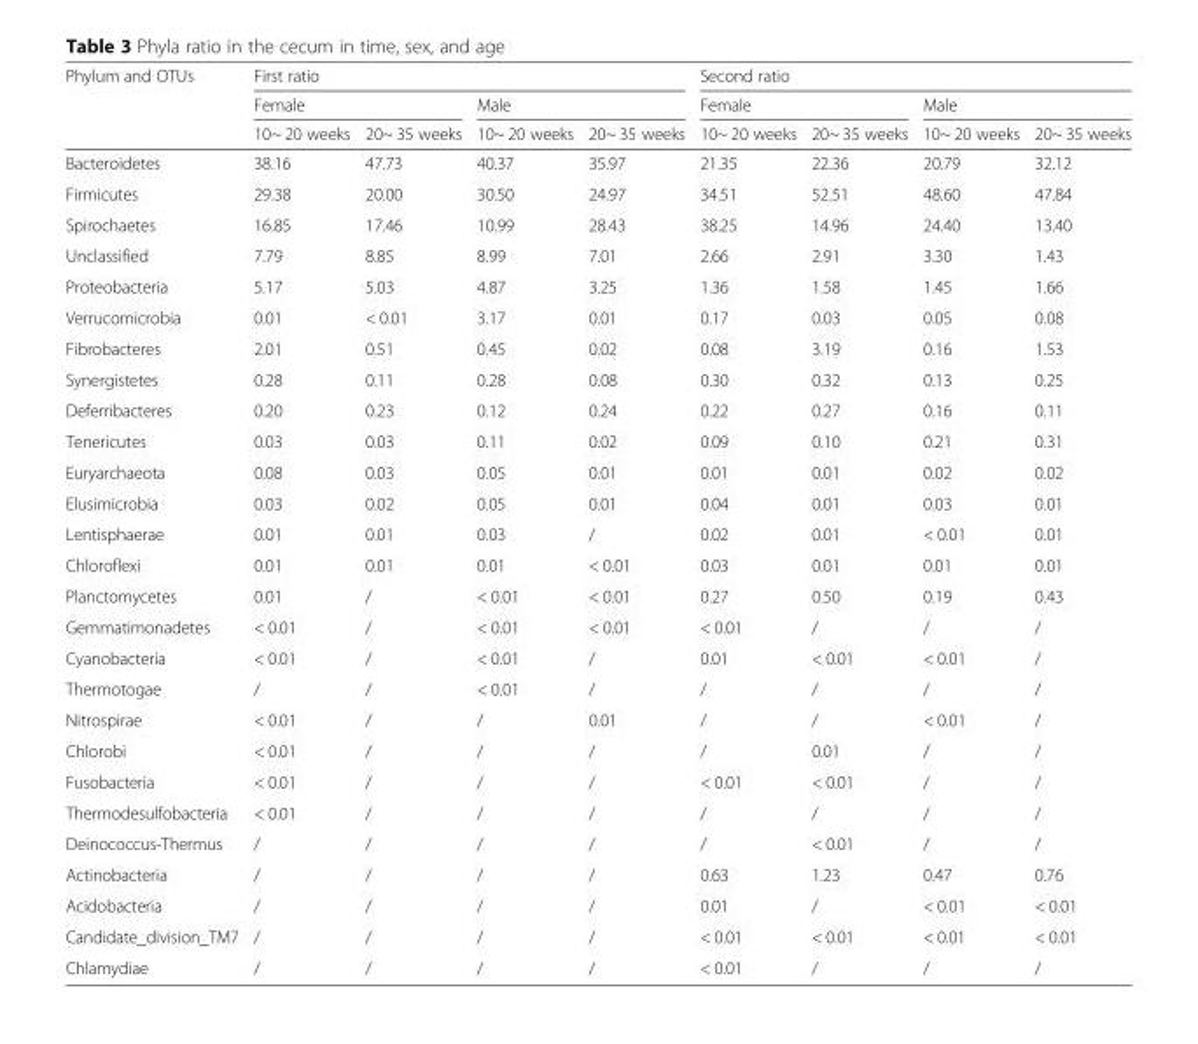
<table><thead><tr><td rowspan="3">Phylum and OTUs</td><td colspan="4">First ratio</td><td colspan="4">Second ratio</td></tr><tr><td colspan="2">Female</td><td colspan="2">Male</td><td colspan="2">Female</td><td colspan="2">Male</td></tr><tr><td>10~ 20 weeks</td><td>20~ 35 weeks</td><td>10~ 20 weeks</td><td>20~ 35 weeks</td><td>10~ 20 weeks</td><td>20~ 35 weeks</td><td>10~ 20 weeks</td><td>20~ 35 weeks</td></tr></thead><tbody><tr><td>Bacteroidetes</td><td>38.16</td><td>47.73</td><td>40.37</td><td>35.97</td><td>21.35</td><td>22.36</td><td>20.79</td><td>32.12</td></tr><tr><td>Firmicutes</td><td>29.38</td><td>20.00</td><td>30.50</td><td>24.97</td><td>34.51</td><td>52.51</td><td>48.60</td><td>47.84</td></tr><tr><td>Spirochaetes</td><td>16.85</td><td>17.46</td><td>10.99</td><td>28.43</td><td>38.25</td><td>14.96</td><td>24.40</td><td>13.40</td></tr><tr><td>Unclassified</td><td>7.79</td><td>8.85</td><td>8.99</td><td>7.01</td><td>2.66</td><td>2.91</td><td>3.30</td><td>1.43</td></tr><tr><td>Proteobacteria</td><td>5.17</td><td>5.03</td><td>4.87</td><td>3.25</td><td>1.36</td><td>1.58</td><td>1.45</td><td>1.66</td></tr><tr><td>Verrucomicrobia</td><td>0.01</td><td>&lt; 0.01</td><td>3.17</td><td>0.01</td><td>0.17</td><td>0.03</td><td>0.05</td><td>0.08</td></tr><tr><td>Fibrobacteres</td><td>2.01</td><td>0.51</td><td>0.45</td><td>0.02</td><td>0.08</td><td>3.19</td><td>0.16</td><td>1.53</td></tr><tr><td>Synergistetes</td><td>0.28</td><td>0.11</td><td>0.28</td><td>0.08</td><td>0.30</td><td>0.32</td><td>0.13</td><td>0.25</td></tr><tr><td>Deferribacteres</td><td>0.20</td><td>0.23</td><td>0.12</td><td>0.24</td><td>0.22</td><td>0.27</td><td>0.16</td><td>0.11</td></tr><tr><td>Tenericutes</td><td>0.03</td><td>0.03</td><td>0.11</td><td>0.02</td><td>0.09</td><td>0.10</td><td>0.21</td><td>0.31</td></tr><tr><td>Euryarchaeota</td><td>0.08</td><td>0.03</td><td>0.05</td><td>0.01</td><td>0.01</td><td>0.01</td><td>0.02</td><td>0.02</td></tr><tr><td>Elusimicrobia</td><td>0.03</td><td>0.02</td><td>0.05</td><td>0.01</td><td>0.04</td><td>0.01</td><td>0.03</td><td>0.01</td></tr><tr><td>Lentisphaerae</td><td>0.01</td><td>0.01</td><td>0.03</td><td>/</td><td>0.02</td><td>0.01</td><td>&lt; 0.01</td><td>0.01</td></tr><tr><td>Chloroflexi</td><td>0.01</td><td>0.01</td><td>0.01</td><td>&lt; 0.01</td><td>0.03</td><td>0.01</td><td>0.01</td><td>0.01</td></tr><tr><td>Planctomycetes</td><td>0.01</td><td>/</td><td>&lt; 0.01</td><td>&lt; 0.01</td><td>0.27</td><td>0.50</td><td>0.19</td><td>0.43</td></tr><tr><td>Gemmatimonadetes</td><td>&lt; 0.01</td><td>/</td><td>&lt; 0.01</td><td>&lt; 0.01</td><td>&lt; 0.01</td><td>/</td><td>/</td><td>/</td></tr><tr><td>Cyanobacteria</td><td>&lt; 0.01</td><td>/</td><td>&lt; 0.01</td><td>/</td><td>0.01</td><td>&lt; 0.01</td><td>&lt; 0.01</td><td>/</td></tr><tr><td>Thermotogae</td><td>/</td><td>/</td><td>&lt; 0.01</td><td>/</td><td>/</td><td>/</td><td>/</td><td>/</td></tr><tr><td>Nitrospirae</td><td>&lt; 0.01</td><td>/</td><td>/</td><td>0.01</td><td>/</td><td>/</td><td>&lt; 0.01</td><td>/</td></tr><tr><td>Chlorobi</td><td>&lt; 0.01</td><td>/</td><td>/</td><td>/</td><td>/</td><td>0.01</td><td>/</td><td>/</td></tr><tr><td>Fusobacteria</td><td>&lt; 0.01</td><td>/</td><td>/</td><td>/</td><td>&lt; 0.01</td><td>&lt; 0.01</td><td>/</td><td>/</td></tr><tr><td>Thermodesulfobacteria</td><td>&lt; 0.01</td><td>/</td><td>/</td><td>/</td><td>/</td><td>/</td><td>/</td><td>/</td></tr><tr><td>Deinococcus-Thermus</td><td>/</td><td>/</td><td>/</td><td>/</td><td>/</td><td>&lt; 0.01</td><td>/</td><td>/</td></tr><tr><td>Actinobacteria</td><td>/</td><td>/</td><td>/</td><td>/</td><td>0.63</td><td>1.23</td><td>0.47</td><td>0.76</td></tr><tr><td>Acidobacteria</td><td>/</td><td>/</td><td>/</td><td>/</td><td>0.01</td><td>/</td><td>&lt; 0.01</td><td>&lt; 0.01</td></tr><tr><td>Candidate_division_TM7</td><td>/</td><td>/</td><td>/</td><td>/</td><td>&lt; 0.01</td><td>&lt; 0.01</td><td>&lt; 0.01</td><td>&lt; 0.01</td></tr><tr><td>Chlamydiae</td><td>/</td><td>/</td><td>/</td><td>/</td><td>&lt; 0.01</td><td>/</td><td>/</td><td>/</td></tr></tbody></table>